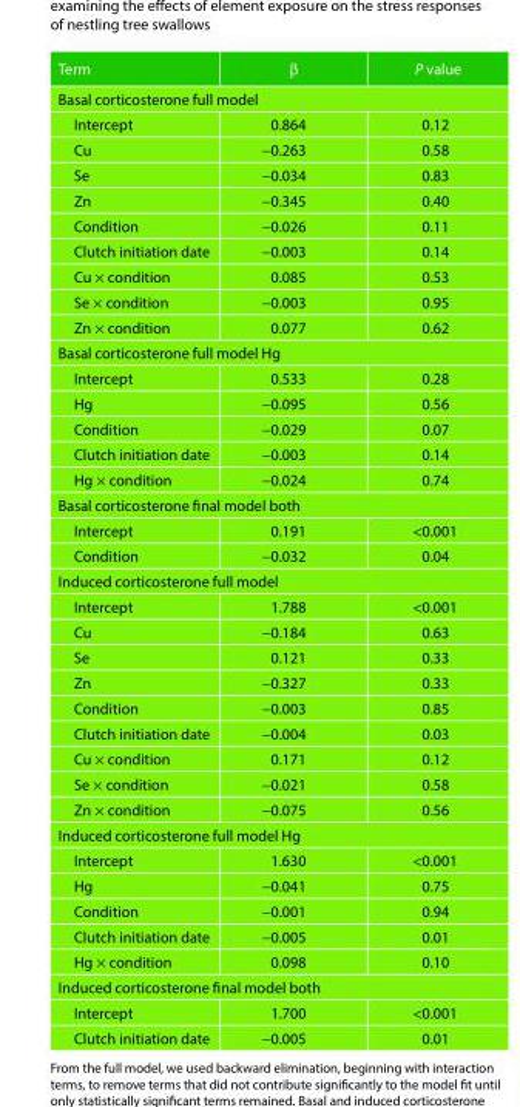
<table><thead><tr><td>Term</td><td>β</td><td>P value</td></tr></thead><tbody><tr><td colspan="3">Basal corticosterone full model</td></tr><tr><td>Intercept</td><td>0.864</td><td>0.12</td></tr><tr><td>Cu</td><td>−0.263</td><td>0.58</td></tr><tr><td>Se</td><td>−0.034</td><td>0.83</td></tr><tr><td>Zn</td><td>−0.345</td><td>0.40</td></tr><tr><td>Condition</td><td>−0.026</td><td>0.11</td></tr><tr><td>Clutch initiation date</td><td>−0.003</td><td>0.14</td></tr><tr><td>Cu × condition</td><td>0.085</td><td>0.53</td></tr><tr><td>Se × condition</td><td>−0.003</td><td>0.95</td></tr><tr><td>Zn × condition</td><td>0.077</td><td>0.62</td></tr><tr><td colspan="3">Basal corticosterone full model Hg</td></tr><tr><td>Intercept</td><td>0.533</td><td>0.28</td></tr><tr><td>Hg</td><td>−0.095</td><td>0.56</td></tr><tr><td>Condition</td><td>−0.029</td><td>0.07</td></tr><tr><td>Clutch initiation date</td><td>−0.003</td><td>0.14</td></tr><tr><td>Hg × condition</td><td>−0.024</td><td>0.74</td></tr><tr><td colspan="3">Basal corticosterone final model both</td></tr><tr><td>Intercept</td><td>0.191</td><td>&lt;0.001</td></tr><tr><td>Condition</td><td>−0.032</td><td>0.04</td></tr><tr><td colspan="3">Induced corticosterone full model</td></tr><tr><td>Intercept</td><td>1.788</td><td>&lt;0.001</td></tr><tr><td>Cu</td><td>−0.184</td><td>0.63</td></tr><tr><td>Se</td><td>0.121</td><td>0.33</td></tr><tr><td>Zn</td><td>−0.327</td><td>0.33</td></tr><tr><td>Condition</td><td>−0.003</td><td>0.85</td></tr><tr><td>Clutch initiation date</td><td>−0.004</td><td>0.03</td></tr><tr><td>Cu × condition</td><td>0.171</td><td>0.12</td></tr><tr><td>Se × condition</td><td>−0.021</td><td>0.58</td></tr><tr><td>Zn × condition</td><td>−0.075</td><td>0.56</td></tr><tr><td colspan="3">Induced corticosterone full model Hg</td></tr><tr><td>Intercept</td><td>1.630</td><td>&lt;0.001</td></tr><tr><td>Hg</td><td>−0.041</td><td>0.75</td></tr><tr><td>Condition</td><td>−0.001</td><td>0.94</td></tr><tr><td>Clutch initiation date</td><td>−0.005</td><td>0.01</td></tr><tr><td>Hg × condition</td><td>0.098</td><td>0.10</td></tr><tr><td colspan="3">Induced corticosterone final model both</td></tr><tr><td>Intercept</td><td>1.700</td><td>&lt;0.001</td></tr><tr><td>Clutch initiation date</td><td>−0.005</td><td>0.01</td></tr></tbody></table>